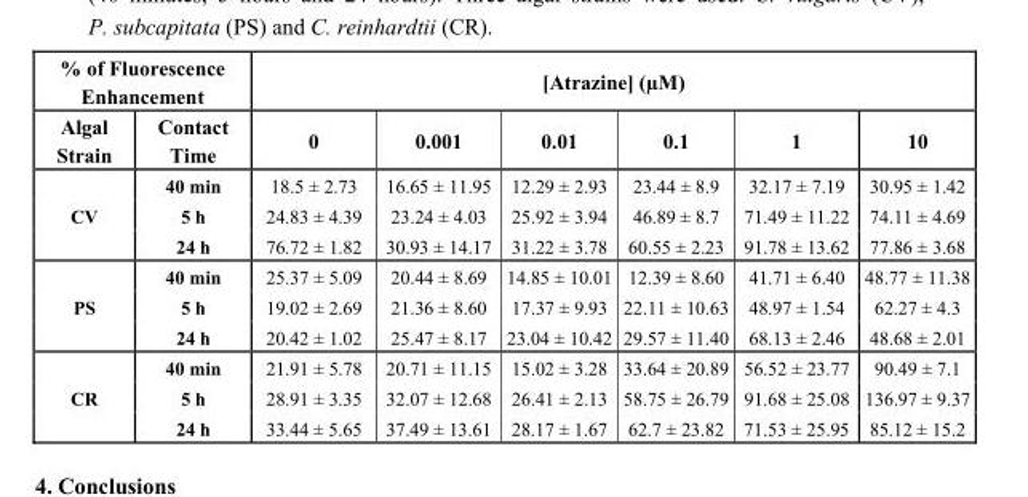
<table><thead><tr><td colspan="2">% of Fluorescence Enhancement</td><td colspan="6">[Atrazine] (µM)</td></tr><tr><td>Algal Strain</td><td>Contact Time</td><td>0</td><td>0.001</td><td>0.01</td><td>0.1</td><td>1</td><td>10</td></tr></thead><tbody><tr><td rowspan="3">CV</td><td>40 min</td><td>18.5 ± 2.73</td><td>16.65 ± 11.95</td><td>12.29 ± 2.93</td><td>23.44 ± 8.9</td><td>32.17 ± 7.19</td><td>30.95 ± 1.42</td></tr><tr><td>5 h</td><td>24.83 ± 4.39</td><td>23.24 ± 4.03</td><td>25.92 ± 3.94</td><td>46.89 ± 8.7</td><td>71.49 ± 11.22</td><td>74.11 ± 4.69</td></tr><tr><td>24 h</td><td>76.72 ± 1.82</td><td>30.93 ± 14.17</td><td>31.22 ± 3.78</td><td>60.55 ± 2.23</td><td>91.78 ± 13.62</td><td>77.86 ± 3.68</td></tr><tr><td rowspan="3">PS</td><td>40 min</td><td>25.37 ± 5.09</td><td>20.44 ± 8.69</td><td>14.85 ± 10.01</td><td>12.39 ± 8.60</td><td>41.71 ± 6.40</td><td>48.77 ± 11.38</td></tr><tr><td>5 h</td><td>19.02 ± 2.69</td><td>21.36 ± 8.60</td><td>17.37 ± 9.93</td><td>22.11 ± 10.63</td><td>48.97 ± 1.54</td><td>62.27 ± 4.3</td></tr><tr><td>24 h</td><td>20.42 ± 1.02</td><td>25.47 ± 8.17</td><td>23.04 ± 10.42</td><td>29.57 ± 11.40</td><td>68.13 ± 2.46</td><td>48.68 ± 2.01</td></tr><tr><td rowspan="3">CR</td><td>40 min</td><td>21.91 ± 5.78</td><td>20.71 ± 11.15</td><td>15.02 ± 3.28</td><td>33.64 ± 20.89</td><td>56.52 ± 23.77</td><td>90.49 ± 7.1</td></tr><tr><td>5 h</td><td>28.91 ± 3.35</td><td>32.07 ± 12.68</td><td>26.41 ± 2.13</td><td>58.75 ± 26.79</td><td>91.68 ± 25.08</td><td>136.97 ± 9.37</td></tr><tr><td>24 h</td><td>33.44 ± 5.65</td><td>37.49 ± 13.61</td><td>28.17 ± 1.67</td><td>62.7 ± 23.82</td><td>71.53 ± 25.95</td><td>85.12 ± 15.2</td></tr></tbody></table>